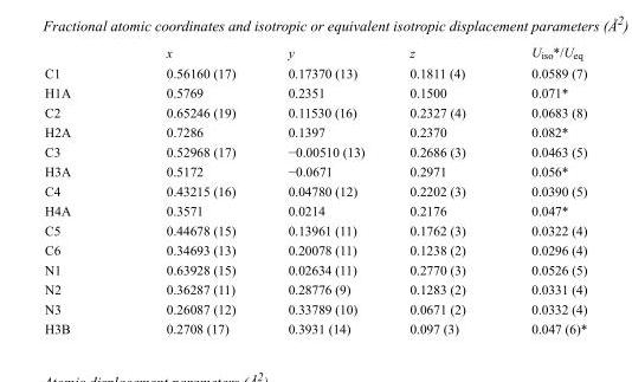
<table><thead><tr><td></td><td>x</td><td>y</td><td>z</td><td>U<sub>iso</sub>*/U<sub>eq</sub></td></tr></thead><tbody><tr><td>C1</td><td>0.56160 (17)</td><td>0.17370 (13)</td><td>0.1811 (4)</td><td>0.0589 (7)</td></tr><tr><td>H1A</td><td>0.5769</td><td>0.2351</td><td>0.1500</td><td>0.071*</td></tr><tr><td>C2</td><td>0.65246 (19)</td><td>0.11530 (16)</td><td>0.2327 (4)</td><td>0.0683 (8)</td></tr><tr><td>H2A</td><td>0.7286</td><td>0.1397</td><td>0.2370</td><td>0.082*</td></tr><tr><td>C3</td><td>0.52968 (17)</td><td>−0.00510 (13)</td><td>0.2686 (3)</td><td>0.0463 (5)</td></tr><tr><td>H3A</td><td>0.5172</td><td>−0.0671</td><td>0.2971</td><td>0.056*</td></tr><tr><td>C4</td><td>0.43215 (16)</td><td>0.04780 (12)</td><td>0.2202 (3)</td><td>0.0390 (5)</td></tr><tr><td>H4A</td><td>0.3571</td><td>0.0214</td><td>0.2176</td><td>0.047*</td></tr><tr><td>C5</td><td>0.44678 (15)</td><td>0.13961 (11)</td><td>0.1762 (3)</td><td>0.0322 (4)</td></tr><tr><td>C6</td><td>0.34693 (13)</td><td>0.20078 (11)</td><td>0.1238 (2)</td><td>0.0296 (4)</td></tr><tr><td>N1</td><td>0.63928 (15)</td><td>0.02634 (11)</td><td>0.2770 (3)</td><td>0.0526 (5)</td></tr><tr><td>N2</td><td>0.36287 (11)</td><td>0.28776 (9)</td><td>0.1283 (2)</td><td>0.0331 (4)</td></tr><tr><td>N3</td><td>0.26087 (12)</td><td>0.33789 (10)</td><td>0.0671 (2)</td><td>0.0332 (4)</td></tr><tr><td>H3B</td><td>0.2708 (17)</td><td>0.3931 (14)</td><td>0.097 (3)</td><td>0.047 (6)*</td></tr></tbody></table>